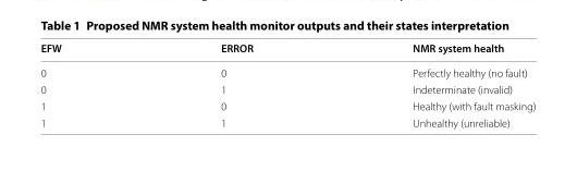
<table><thead><tr><td>EFW</td><td>ERROR</td><td>NMR system health</td></tr></thead><tbody><tr><td>0</td><td>0</td><td>Perfectly healthy (no fault)</td></tr><tr><td>0</td><td>1</td><td>Indeterminate (invalid)</td></tr><tr><td>1</td><td>0</td><td>Healthy (with fault masking)</td></tr><tr><td>1</td><td>1</td><td>Unhealthy (unreliable)</td></tr></tbody></table>